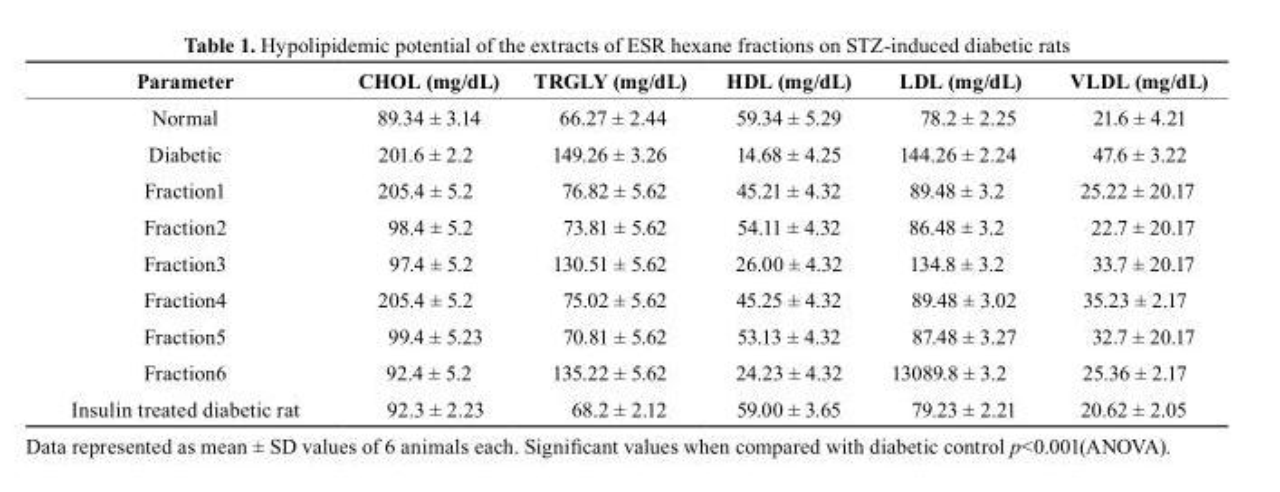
<table><thead><tr><td>Parameter</td><td>CHOL (mg/dL)</td><td>TRGLY (mg/dL)</td><td>HDL (mg/dL)</td><td>LDL (mg/dL)</td><td>VLDL (mg/dL)</td></tr></thead><tbody><tr><td>Normal</td><td>89.34 ± 3.14</td><td>66.27 ± 2.44</td><td>59.34 ± 5.29</td><td>78.2 ± 2.25</td><td>21.6 ± 4.21</td></tr><tr><td>Diabetic</td><td>201.6 ± 2.2</td><td>149.26 ± 3.26</td><td>14.68 ± 4.25</td><td>144.26 ± 2.24</td><td>47.6 ± 3.22</td></tr><tr><td>Fraction1</td><td>205.4 ± 5.2</td><td>76.82 ± 5.62</td><td>45.21 ± 4.32</td><td>89.48 ± 3.2</td><td>25.22 ± 20.17</td></tr><tr><td>Fraction2</td><td>98.4 ± 5.2</td><td>73.81 ± 5.62</td><td>54.11 ± 4.32</td><td>86.48 ± 3.2</td><td>22.7 ± 20.17</td></tr><tr><td>Fraction3</td><td>97.4 ± 5.2</td><td>130.51 ± 5.62</td><td>26.00 ± 4.32</td><td>134.8 ± 3.2</td><td>33.7 ± 20.17</td></tr><tr><td>Fraction4</td><td>205.4 ± 5.2</td><td>75.02 ± 5.62</td><td>45.25 ± 4.32</td><td>89.48 ± 3.02</td><td>35.23 ± 2.17</td></tr><tr><td>Fraction5</td><td>99.4 ± 5.23</td><td>70.81 ± 5.62</td><td>53.13 ± 4.32</td><td>87.48 ± 3.27</td><td>32.7 ± 20.17</td></tr><tr><td>Fraction6</td><td>92.4 ± 5.2</td><td>135.22 ± 5.62</td><td>24.23 ± 4.32</td><td>13089.8 ± 3.2</td><td>25.36 ± 2.17</td></tr><tr><td>Insulin treated diabetic rat</td><td>92.3 ± 2.23</td><td>68.2 ± 2.12</td><td>59.00 ± 3.65</td><td>79.23 ± 2.21</td><td>20.62 ± 2.05</td></tr></tbody></table>